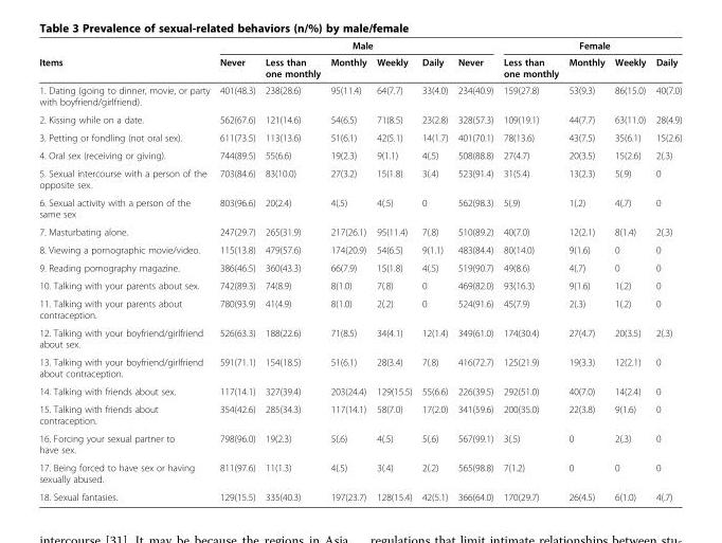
<table><thead><tr><td rowspan="2">Items</td><td colspan="6">Male</td><td colspan="4">Female</td></tr><tr><td>Never</td><td>Less than one monthly</td><td>Monthly</td><td>Weekly</td><td>Daily</td><td>Never</td><td>Less than one monthly</td><td>Monthly</td><td>Weekly</td><td>Daily</td></tr></thead><tbody><tr><td>1. Dating (going to dinner, movie, or party with boyfriend/girlfriend).</td><td>401(48.3)</td><td>238(28.6)</td><td>95(11.4)</td><td>64(7.7)</td><td>33(4.0)</td><td>234(40.9)</td><td>159(27.8)</td><td>53(9.3)</td><td>86(15.0)</td><td>40(7.0)</td></tr><tr><td>2. Kissing while on a date.</td><td>562(67.6)</td><td>121(14.6)</td><td>54(6.5)</td><td>71(8.5)</td><td>23(2.8)</td><td>328(57.3)</td><td>109(19.1)</td><td>44(7.7)</td><td>63(11.0)</td><td>28(4.9)</td></tr><tr><td>3. Petting or fondling (not oral sex).</td><td>611(73.5)</td><td>113(13.6)</td><td>51(6.1)</td><td>42(5.1)</td><td>14(1.7)</td><td>401(70.1)</td><td>78(13.6)</td><td>43(7.5)</td><td>35(6.1)</td><td>15(2.6)</td></tr><tr><td>4. Oral sex (receiving or giving).</td><td>744(89.5)</td><td>55(6.6)</td><td>19(2.3)</td><td>9(1.1)</td><td>4(.5)</td><td>508(88.8)</td><td>27(4.7)</td><td>20(3.5)</td><td>15(2.6)</td><td>2(.3)</td></tr><tr><td>5. Sexual intercourse with a person of the opposite sex.</td><td>703(84.6)</td><td>83(10.0)</td><td>27(3.2)</td><td>15(1.8)</td><td>3(.4)</td><td>523(91.4)</td><td>31(5.4)</td><td>13(2.3)</td><td>5(.9)</td><td>0</td></tr><tr><td>6. Sexual activity with a person of the same sex</td><td>803(96.6)</td><td>20(2.4)</td><td>4(.5)</td><td>4(.5)</td><td>0</td><td>562(98.3)</td><td>5(.9)</td><td>1(.2)</td><td>4(.7)</td><td>0</td></tr><tr><td>7. Masturbating alone.</td><td>247(29.7)</td><td>265(31.9)</td><td>217(26.1)</td><td>95(11.4)</td><td>7(.8)</td><td>510(89.2)</td><td>40(7.0)</td><td>12(2.1)</td><td>8(1.4)</td><td>2(.3)</td></tr><tr><td>8. Viewing a pornographic movie/video.</td><td>115(13.8)</td><td>479(57.6)</td><td>174(20.9)</td><td>54(6.5)</td><td>9(1.1)</td><td>483(84.4)</td><td>80(14.0)</td><td>9(1.6)</td><td>0</td><td>0</td></tr><tr><td>9. Reading pornography magazine.</td><td>386(46.5)</td><td>360(43.3)</td><td>66(7.9)</td><td>15(1.8)</td><td>4(.5)</td><td>519(90.7)</td><td>49(8.6)</td><td>4(.7)</td><td>0</td><td>0</td></tr><tr><td>10. Talking with your parents about sex.</td><td>742(89.3)</td><td>74(8.9)</td><td>8(1.0)</td><td>7(.8)</td><td>0</td><td>469(82.0)</td><td>93(16.3)</td><td>9(1.6)</td><td>1(.2)</td><td>0</td></tr><tr><td>11. Talking with your parents about contraception.</td><td>780(93.9)</td><td>41(4.9)</td><td>8(1.0)</td><td>2(.2)</td><td>0</td><td>524(91.6)</td><td>45(7.9)</td><td>2(.3)</td><td>1(.2)</td><td>0</td></tr><tr><td>12. Talking with your boyfriend/girlfriend about sex.</td><td>526(63.3)</td><td>188(22.6)</td><td>71(8.5)</td><td>34(4.1)</td><td>12(1.4)</td><td>349(61.0)</td><td>174(30.4)</td><td>27(4.7)</td><td>20(3.5)</td><td>2(.3)</td></tr><tr><td>13. Talking with your boyfriend/girlfriend about contraception.</td><td>591(71.1)</td><td>154(18.5)</td><td>51(6.1)</td><td>28(3.4)</td><td>7(.8)</td><td>416(72.7)</td><td>125(21.9)</td><td>19(3.3)</td><td>12(2.1)</td><td>0</td></tr><tr><td>14. Talking with friends about sex.</td><td>117(14.1)</td><td>327(39.4)</td><td>203(24.4)</td><td>129(15.5)</td><td>55(6.6)</td><td>226(39.5)</td><td>292(51.0)</td><td>40(7.0)</td><td>14(2.4)</td><td>0</td></tr><tr><td>15. Talking with friends about contraception.</td><td>354(42.6)</td><td>285(34.3)</td><td>117(14.1)</td><td>58(7.0)</td><td>17(2.0)</td><td>341(59.6)</td><td>200(35.0)</td><td>22(3.8)</td><td>9(1.6)</td><td>0</td></tr><tr><td>16. Forcing your sexual partner to have sex.</td><td>798(96.0)</td><td>19(2.3)</td><td>5(.6)</td><td>4(.5)</td><td>5(.6)</td><td>567(99.1)</td><td>3(.5)</td><td>0</td><td>2(.3)</td><td>0</td></tr><tr><td>17. Being forced to have sex or having sexually abused.</td><td>811(97.6)</td><td>11(1.3)</td><td>4(.5)</td><td>3(.4)</td><td>2(.2)</td><td>565(98.8)</td><td>7(1.2)</td><td>0</td><td>0</td><td>0</td></tr><tr><td>18. Sexual fantasies.</td><td>129(15.5)</td><td>335(40.3)</td><td>197(23.7)</td><td>128(15.4)</td><td>42(5.1)</td><td>366(64.0)</td><td>170(29.7)</td><td>26(4.5)</td><td>6(1.0)</td><td>4(.7)</td></tr></tbody></table>